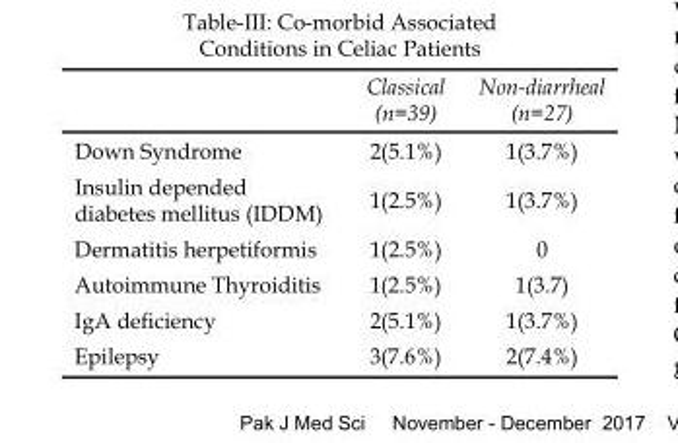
<table><thead><tr><td></td><td>Classical (n=39)</td><td>Non-diarrheal (n=27)</td></tr></thead><tbody><tr><td>Down Syndrome</td><td>2(5.1%)</td><td>1(3.7%)</td></tr><tr><td>Insulin depended diabetes mellitus (IDDM)</td><td>1(2.5%)</td><td>1(3.7%)</td></tr><tr><td>Dermatitis herpetiformis</td><td>1(2.5%)</td><td>0</td></tr><tr><td>Autoimmune Thyroiditis</td><td>1(2.5%)</td><td>1(3.7)</td></tr><tr><td>IgA deficiency</td><td>2(5.1%)</td><td>1(3.7%)</td></tr><tr><td>Epilepsy</td><td>3(7.6%)</td><td>2(7.4%)</td></tr></tbody></table>